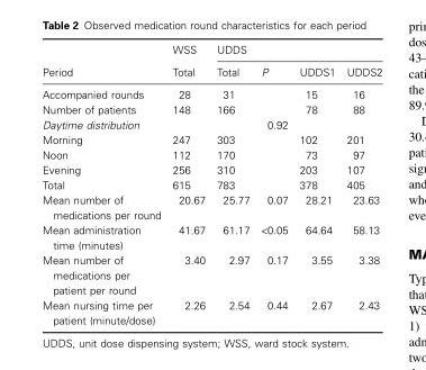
<table><thead><tr><td rowspan="2">Period</td><td rowspan="2">WSS Total</td><td colspan="4">UDDS</td></tr><tr><td>Total</td><td>P</td><td>UDDS1</td><td>UDDS2</td></tr></thead><tbody><tr><td>Accompanied rounds</td><td>28</td><td>31</td><td></td><td>15</td><td>16</td></tr><tr><td>Number of patients</td><td>148</td><td>166</td><td></td><td>78</td><td>88</td></tr><tr><td>Daytime distribution</td><td></td><td></td><td>0.92</td><td></td><td></td></tr><tr><td>Morning</td><td>247</td><td>303</td><td></td><td>102</td><td>201</td></tr><tr><td>Noon</td><td>112</td><td>170</td><td></td><td>73</td><td>97</td></tr><tr><td>Evening</td><td>256</td><td>310</td><td></td><td>203</td><td>107</td></tr><tr><td>Total</td><td>615</td><td>783</td><td></td><td>378</td><td>405</td></tr><tr><td>Mean number of medications per round</td><td>20.67</td><td>25.77</td><td>0.07</td><td>28.21</td><td>23.63</td></tr><tr><td>Mean administration time (minutes)</td><td>41.67</td><td>61.17</td><td>&lt;0.05</td><td>64.64</td><td>58.13</td></tr><tr><td>Mean number of medications per patient per round</td><td>3.40</td><td>2.97</td><td>0.17</td><td>3.55</td><td>3.38</td></tr><tr><td>Mean nursing time per patient (minute/dose)</td><td>2.26</td><td>2.54</td><td>0.44</td><td>2.67</td><td>2.43</td></tr></tbody></table>